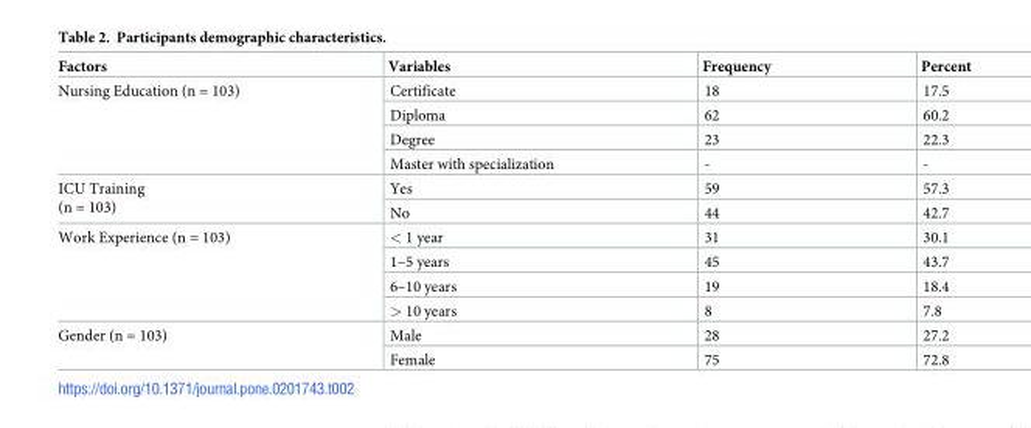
<table><thead><tr><td>Factors</td><td>Variables</td><td>Frequency</td><td>Percent</td></tr></thead><tbody><tr><td rowspan="4">Nursing Education (n = 103)</td><td>Certificate</td><td>18</td><td>17.5</td></tr><tr><td>Diploma</td><td>62</td><td>60.2</td></tr><tr><td>Degree</td><td>23</td><td>22.3</td></tr><tr><td>Master with specialization</td><td>-</td><td>-</td></tr><tr><td rowspan="2">ICU Training (n = 103)</td><td>Yes</td><td>59</td><td>57.3</td></tr><tr><td>No</td><td>44</td><td>42.7</td></tr><tr><td rowspan="4">Work Experience (n = 103)</td><td>&lt; 1 year</td><td>31</td><td>30.1</td></tr><tr><td>1–5 years</td><td>45</td><td>43.7</td></tr><tr><td>6–10 years</td><td>19</td><td>18.4</td></tr><tr><td>&gt; 10 years</td><td>8</td><td>7.8</td></tr><tr><td rowspan="2">Gender (n = 103)</td><td>Male</td><td>28</td><td>27.2</td></tr><tr><td>Female</td><td>75</td><td>72.8</td></tr></tbody></table>